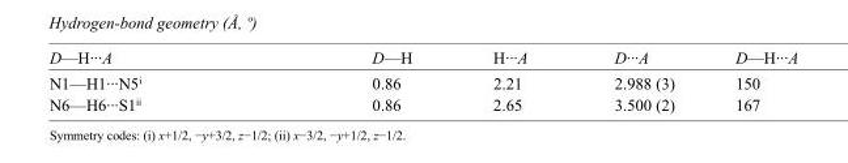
<table><tbody><tr><td>D—H···A</td><td>D—H</td><td>H···A</td><td>D···A</td><td>D—H···A</td></tr><tr><td>N1—H1···N5<sup>i</sup></td><td>0.86</td><td>2.21</td><td>2.988 (3)</td><td>150</td></tr><tr><td>N6—H6···S1<sup>ii</sup></td><td>0.86</td><td>2.65</td><td>3.500 (2)</td><td>167</td></tr></tbody></table>